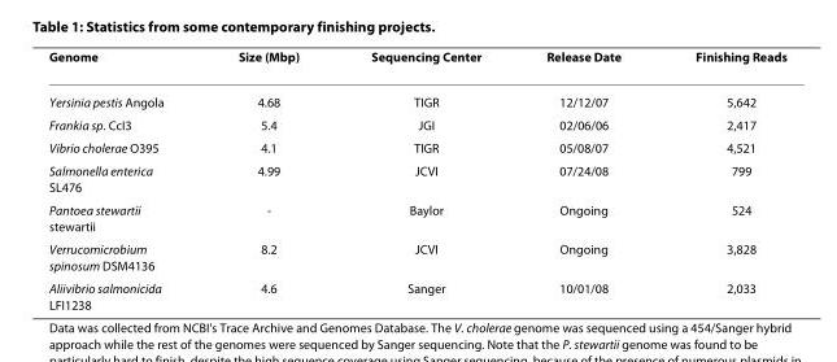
<table><thead><tr><td>Genome</td><td>Size (Mbp)</td><td>Sequencing Center</td><td>Release Date</td><td>Finishing Reads</td></tr></thead><tbody><tr><td>Yersinia pestis Angola</td><td>4.68</td><td>TIGR</td><td>12/12/07</td><td>5,642</td></tr><tr><td>Frankia sp. CcI3</td><td>5.4</td><td>JGI</td><td>02/06/06</td><td>2,417</td></tr><tr><td>Vibrio cholerae O395</td><td>4.1</td><td>TIGR</td><td>05/08/07</td><td>4,521</td></tr><tr><td>Salmonella enterica SL476</td><td>4.99</td><td>JCVI</td><td>07/24/08</td><td>799</td></tr><tr><td>Pantoea stewartii stewartii</td><td>-</td><td>Baylor</td><td>Ongoing</td><td>524</td></tr><tr><td>Verrucomicrobium spinosum DSM4136</td><td>8.2</td><td>JCVI</td><td>Ongoing</td><td>3,828</td></tr><tr><td>Aliivibrio salmonicida LFI1238</td><td>4.6</td><td>Sanger</td><td>10/01/08</td><td>2,033</td></tr></tbody></table>